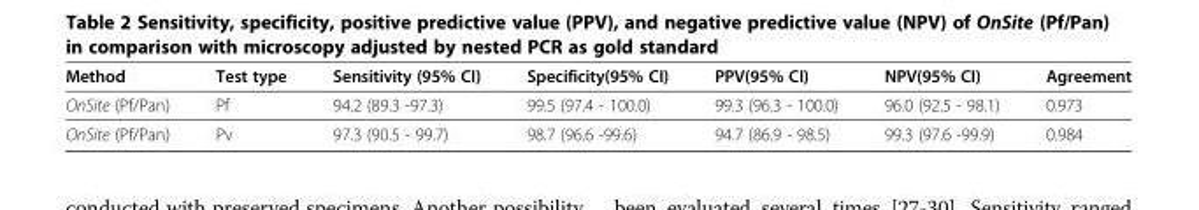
<table><thead><tr><td>Method</td><td>Test type</td><td>Sensitivity (95% CI)</td><td>Specificity(95% CI)</td><td>PPV(95% CI)</td><td>NPV(95% CI)</td><td>Agreement</td></tr></thead><tbody><tr><td>OnSite (Pf/Pan)</td><td>Pf</td><td>94.2 (89.3 -97.3)</td><td>99.5 (97.4 - 100.0)</td><td>99.3 (96.3 - 100.0)</td><td>96.0 (92.5 - 98.1)</td><td>0.973</td></tr><tr><td>OnSite (Pf/Pan)</td><td>Pv</td><td>97.3 (90.5 - 99.7)</td><td>98.7 (96.6 -99.6)</td><td>94.7 (86.9 - 98.5)</td><td>99.3 (97.6 -99.9)</td><td>0.984</td></tr></tbody></table>